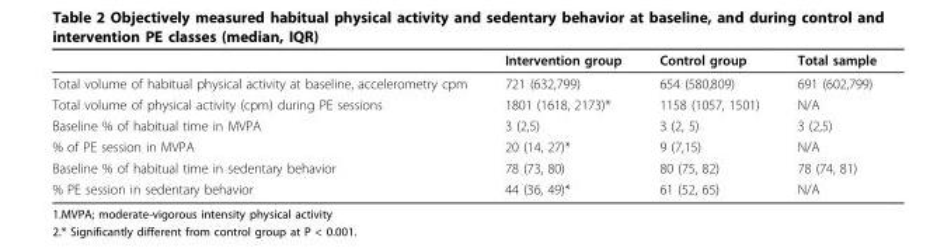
<table><thead><tr><td></td><td>Intervention group</td><td>Control group</td><td>Total sample</td></tr></thead><tbody><tr><td>Total volume of habitual physical activity at baseline, accelerometry cpm</td><td>721 (632,799)</td><td>654 (580,809)</td><td>691 (602,799)</td></tr><tr><td>Total volume of physical activity (cpm) during PE sessions</td><td>1801 (1618, 2173)*</td><td>1158 (1057, 1501)</td><td>N/A</td></tr><tr><td>Baseline % of habitual time in MVPA</td><td>3 (2,5)</td><td>3 (2, 5)</td><td>3 (2,5)</td></tr><tr><td>% of PE session in MVPA</td><td>20 (14, 27)*</td><td>9 (7,15)</td><td>N/A</td></tr><tr><td>Baseline % of habitual time in sedentary behavior</td><td>78 (73, 80)</td><td>80 (75, 82)</td><td>78 (74, 81)</td></tr><tr><td>% PE session in sedentary behavior</td><td>44 (36, 49)*</td><td>61 (52, 65)</td><td>N/A</td></tr></tbody></table>